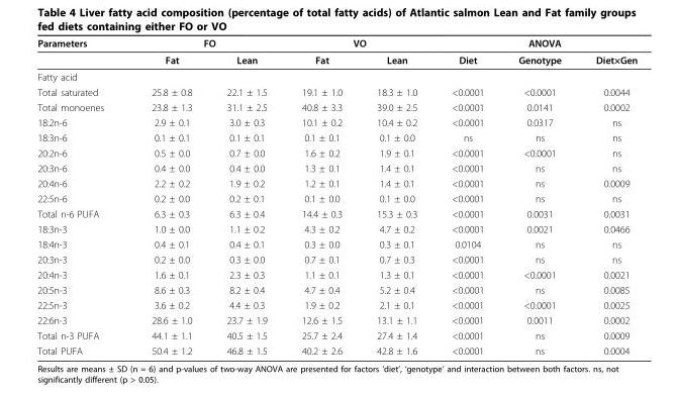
<table><thead><tr><td rowspan="2">Parameters</td><td colspan="2">FO</td><td colspan="2">VO</td><td colspan="3">ANOVA</td></tr><tr><td>Fat</td><td>Lean</td><td>Fat</td><td>Lean</td><td>Diet</td><td>Genotype</td><td>Diet×Gen</td></tr></thead><tbody><tr><td colspan="8">Fatty acid</td></tr><tr><td>Total saturated</td><td>25.8 ± 0.8</td><td>22.1 ± 1.5</td><td>19.1 ± 1.0</td><td>18.3 ± 1.0</td><td>&lt;0.0001</td><td>&lt;0.0001</td><td>0.0044</td></tr><tr><td>Total monoenes</td><td>23.8 ± 1.3</td><td>31.1 ± 2.5</td><td>40.8 ± 3.3</td><td>39.0 ± 2.5</td><td>&lt;0.0001</td><td>0.0141</td><td>0.0002</td></tr><tr><td>18:2n-6</td><td>2.9 ± 0.1</td><td>3.0 ± 0.3</td><td>10.1 ± 0.2</td><td>10.4 ± 0.2</td><td>&lt;0.0001</td><td>0.0317</td><td>ns</td></tr><tr><td>18:3n-6</td><td>0.1 ± 0.1</td><td>0.1 ± 0.1</td><td>0.1 ± 0.1</td><td>0.1 ± 0.0</td><td>ns</td><td>ns</td><td>ns</td></tr><tr><td>20:2n-6</td><td>0.5 ± 0.0</td><td>0.7 ± 0.0</td><td>1.6 ± 0.2</td><td>1.9 ± 0.1</td><td>&lt;0.0001</td><td>&lt;0.0001</td><td>ns</td></tr><tr><td>20:3n-6</td><td>0.4 ± 0.0</td><td>0.4 ± 0.0</td><td>1.3 ± 0.1</td><td>1.4 ± 0.1</td><td>&lt;0.0001</td><td>ns</td><td>ns</td></tr><tr><td>20:4n-6</td><td>2.2 ± 0.2</td><td>1.9 ± 0.2</td><td>1.2 ± 0.1</td><td>1.4 ± 0.1</td><td>&lt;0.0001</td><td>ns</td><td>0.0009</td></tr><tr><td>22:5n-6</td><td>0.2 ± 0.0</td><td>0.2 ± 0.1</td><td>0.1 ± 0.0</td><td>0.1 ± 0.0</td><td>&lt;0.0001</td><td>ns</td><td>ns</td></tr><tr><td>Total n-6 PUFA</td><td>6.3 ± 0.3</td><td>6.3 ± 0.4</td><td>14.4 ± 0.3</td><td>15.3 ± 0.3</td><td>&lt;0.0001</td><td>0.0031</td><td>0.0031</td></tr><tr><td>18:3n-3</td><td>1.0 ± 0.0</td><td>1.1 ± 0.2</td><td>4.3 ± 0.2</td><td>4.7 ± 0.2</td><td>&lt;0.0001</td><td>0.0021</td><td>0.0466</td></tr><tr><td>18:4n-3</td><td>0.4 ± 0.1</td><td>0.4 ± 0.1</td><td>0.3 ± 0.0</td><td>0.3 ± 0.1</td><td>0.0104</td><td>ns</td><td>ns</td></tr><tr><td>20:3n-3</td><td>0.2 ± 0.0</td><td>0.3 ± 0.0</td><td>0.7 ± 0.1</td><td>0.7 ± 0.3</td><td>&lt;0.0001</td><td>ns</td><td>ns</td></tr><tr><td>20:4n-3</td><td>1.6 ± 0.1</td><td>2.3 ± 0.3</td><td>1.1 ± 0.1</td><td>1.3 ± 0.1</td><td>&lt;0.0001</td><td>&lt;0.0001</td><td>0.0021</td></tr><tr><td>20:5n-3</td><td>8.6 ± 0.3</td><td>8.2 ± 0.4</td><td>4.7 ± 0.4</td><td>5.2 ± 0.4</td><td>&lt;0.0001</td><td>ns</td><td>0.0085</td></tr><tr><td>22:5n-3</td><td>3.6 ± 0.2</td><td>4.4 ± 0.3</td><td>1.9 ± 0.2</td><td>2.1 ± 0.1</td><td>&lt;0.0001</td><td>&lt;0.0001</td><td>0.0025</td></tr><tr><td>22:6n-3</td><td>28.6 ± 1.0</td><td>23.7 ± 1.9</td><td>12.6 ± 1.5</td><td>13.1 ± 1.1</td><td>&lt;0.0001</td><td>0.0011</td><td>0.0002</td></tr><tr><td>Total n-3 PUFA</td><td>44.1 ± 1.1</td><td>40.5 ± 1.5</td><td>25.7 ± 2.4</td><td>27.4 ± 1.4</td><td>&lt;0.0001</td><td>ns</td><td>0.0009</td></tr><tr><td>Total PUFA</td><td>50.4 ± 1.2</td><td>46.8 ± 1.5</td><td>40.2 ± 2.6</td><td>42.8 ± 1.6</td><td>&lt;0.0001</td><td>ns</td><td>0.0004</td></tr></tbody></table>